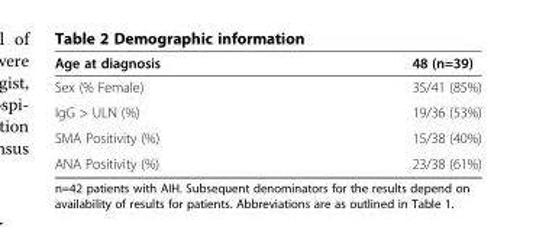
<table><thead><tr><td>Age at diagnosis</td><td>48 (n=39)</td></tr></thead><tbody><tr><td>Sex (% Female)</td><td>35/41 (85%)</td></tr><tr><td>IgG &gt; ULN (%)</td><td>19/36 (53%)</td></tr><tr><td>SMA Positivity (%)</td><td>15/38 (40%)</td></tr><tr><td>ANA Positivity (%)</td><td>23/38 (61%)</td></tr></tbody></table>